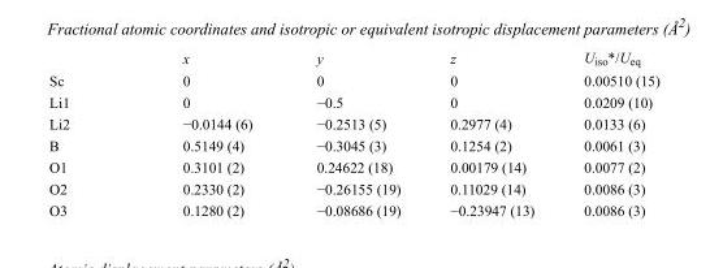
<table><thead><tr><td></td><td>x</td><td>y</td><td>z</td><td>U<sub>iso</sub>*/U<sub>eq</sub></td></tr></thead><tbody><tr><td>Sc</td><td>0</td><td>0</td><td>0</td><td>0.00510 (15)</td></tr><tr><td>Li1</td><td>0</td><td>−0.5</td><td>0</td><td>0.0209 (10)</td></tr><tr><td>Li2</td><td>−0.0144 (6)</td><td>−0.2513 (5)</td><td>0.2977 (4)</td><td>0.0133 (6)</td></tr><tr><td>B</td><td>0.5149 (4)</td><td>−0.3045 (3)</td><td>0.1254 (2)</td><td>0.0061 (3)</td></tr><tr><td>O1</td><td>0.3101 (2)</td><td>0.24622 (18)</td><td>0.00179 (14)</td><td>0.0077 (2)</td></tr><tr><td>O2</td><td>0.2330 (2)</td><td>−0.26155 (19)</td><td>0.11029 (14)</td><td>0.0086 (3)</td></tr><tr><td>O3</td><td>0.1280 (2)</td><td>−0.08686 (19)</td><td>−0.23947 (13)</td><td>0.0086 (3)</td></tr></tbody></table>